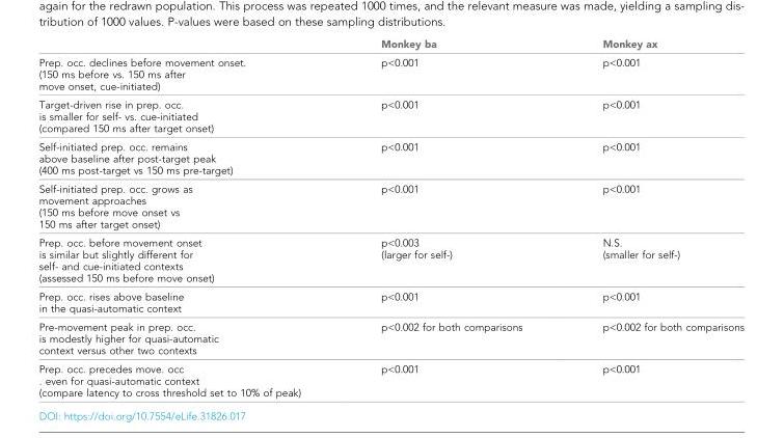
<table><thead><tr><td></td><td>Monkey ba</td><td>Monkey ax</td></tr></thead><tbody><tr><td>Prep. occ. declines before movement onset. (150 ms before vs. 150 ms after move onset, cue-initiated)</td><td>p&lt;0.001</td><td>p&lt;0.001</td></tr><tr><td>Target-driven rise in prep. occ. is smaller for self- vs. cue-initiated (compared 150 ms after target onset)</td><td>p&lt;0.001</td><td>p&lt;0.001</td></tr><tr><td>Self-initiated prep. occ. remains above baseline after post-target peak (400 ms post-target vs 150 ms pre-target)</td><td>p&lt;0.001</td><td>p&lt;0.001</td></tr><tr><td>Self-initiated prep. occ. grows as movement approaches (150 ms before move onset vs 150 ms after target onset)</td><td>p&lt;0.001</td><td>p&lt;0.001</td></tr><tr><td>Prep. occ. before movement onset is similar but slightly different for self- and cue-initiated contexts (assessed 150 ms before move onset)</td><td>p&lt;0.003 (larger for self-)</td><td>N.S. (smaller for self-)</td></tr><tr><td>Prep. occ. rises above baseline in the quasi-automatic context</td><td>p&lt;0.001</td><td>p&lt;0.001</td></tr><tr><td>Pre-movement peak in prep. occ. is modestly higher for quasi-automatic context versus other two contexts</td><td>p&lt;0.002 for both comparisons</td><td>p&lt;0.002 for both comparisons</td></tr><tr><td>Prep. occ. precedes move. occ . even for quasi-automatic context (compare latency to cross threshold set to 10% of peak)</td><td>p&lt;0.001</td><td>p&lt;0.001</td></tr></tbody></table>